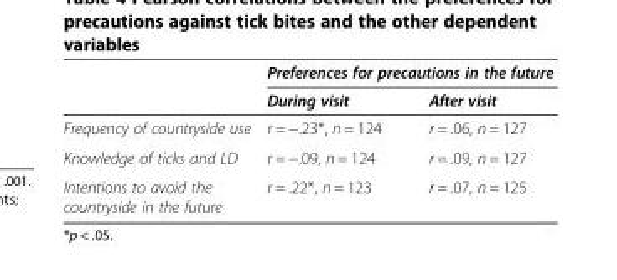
<table><thead><tr><td rowspan="2"></td><td colspan="2">Preferences for precautions in the future</td></tr><tr><td>During visit</td><td>After visit</td></tr></thead><tbody><tr><td>Frequency of countryside use</td><td>r = −.23*, n = 124</td><td>r = .06, n = 127</td></tr><tr><td>Knowledge of ticks and LD</td><td>r = −.09, n = 124</td><td>r = .09, n = 127</td></tr><tr><td>Intentions to avoid the countryside in the future</td><td>r = .22*, n = 123</td><td>r = .07, n = 125</td></tr></tbody></table>